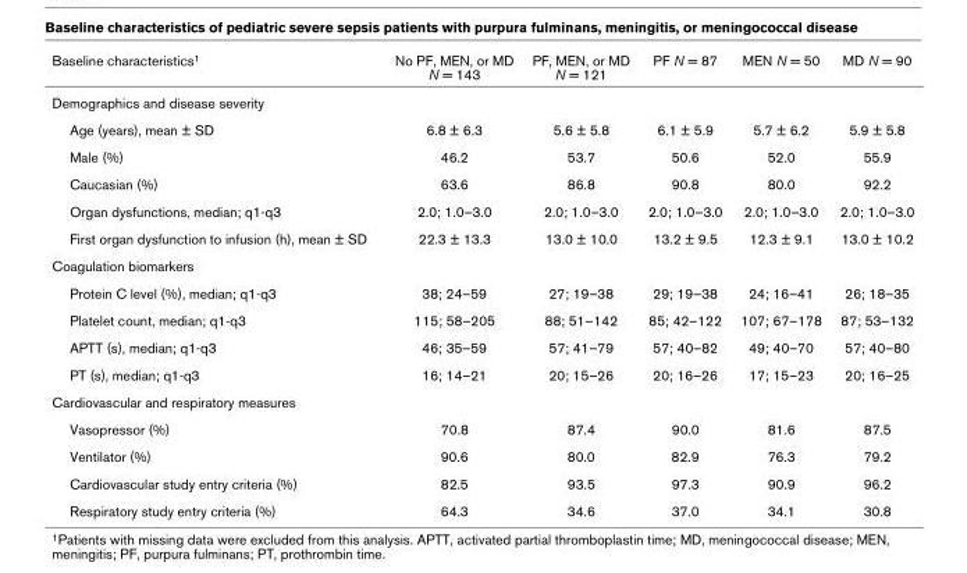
<table><thead><tr><td>Baseline characteristics1</td><td>No PF, MEN, or MD N = 143</td><td>PF, MEN, or MD N = 121</td><td>PF N = 87</td><td>MEN N = 50</td><td>MD N = 90</td></tr></thead><tbody><tr><td colspan="6">Demographics and disease severity</td></tr><tr><td>Age (years), mean ± SD</td><td>6.8 ± 6.3</td><td>5.6 ± 5.8</td><td>6.1 ± 5.9</td><td>5.7 ± 6.2</td><td>5.9 ± 5.8</td></tr><tr><td>Male (%)</td><td>46.2</td><td>53.7</td><td>50.6</td><td>52.0</td><td>55.9</td></tr><tr><td>Caucasian (%)</td><td>63.6</td><td>86.8</td><td>90.8</td><td>80.0</td><td>92.2</td></tr><tr><td>Organ dysfunctions, median; q1-q3</td><td>2.0; 1.0–3.0</td><td>2.0; 1.0–3.0</td><td>2.0; 1.0–3.0</td><td>2.0; 1.0–3.0</td><td>2.0; 1.0–3.0</td></tr><tr><td>First organ dysfunction to infusion (h), mean ± SD</td><td>22.3 ± 13.3</td><td>13.0 ± 10.0</td><td>13.2 ± 9.5</td><td>12.3 ± 9.1</td><td>13.0 ± 10.2</td></tr><tr><td colspan="6">Coagulation biomarkers</td></tr><tr><td>Protein C level (%), median; q1-q3</td><td>38; 24–59</td><td>27; 19–38</td><td>29; 19–38</td><td>24; 16–41</td><td>26; 18–35</td></tr><tr><td>Platelet count, median; q1-q3</td><td>115; 58–205</td><td>88; 51–142</td><td>85; 42–122</td><td>107; 67–178</td><td>87; 53–132</td></tr><tr><td>APTT (s), median; q1-q3</td><td>46; 35–59</td><td>57; 41–79</td><td>57; 40–82</td><td>49; 40–70</td><td>57; 40–80</td></tr><tr><td>PT (s), median; q1-q3</td><td>16; 14–21</td><td>20; 15–26</td><td>20; 16–26</td><td>17; 15–23</td><td>20; 16–25</td></tr><tr><td colspan="6">Cardiovascular and respiratory measures</td></tr><tr><td>Vasopressor (%)</td><td>70.8</td><td>87.4</td><td>90.0</td><td>81.6</td><td>87.5</td></tr><tr><td>Ventilator (%)</td><td>90.6</td><td>80.0</td><td>82.9</td><td>76.3</td><td>79.2</td></tr><tr><td>Cardiovascular study entry criteria (%)</td><td>82.5</td><td>93.5</td><td>97.3</td><td>90.9</td><td>96.2</td></tr><tr><td>Respiratory study entry criteria (%)</td><td>64.3</td><td>34.6</td><td>37.0</td><td>34.1</td><td>30.8</td></tr></tbody></table>